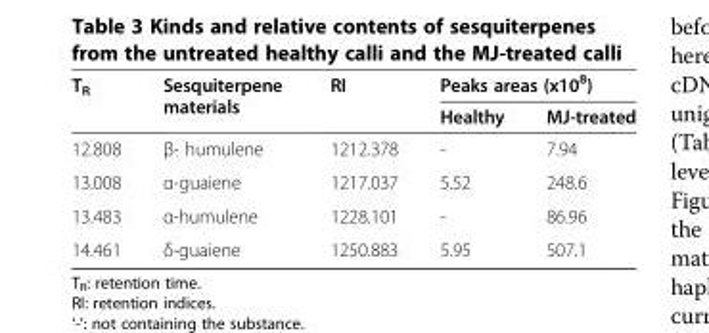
<table><thead><tr><td rowspan="2">T<sub>R</sub></td><td rowspan="2">Sesquiterpene materials</td><td rowspan="2">RI</td><td colspan="2">Peaks areas (x10<sup>8</sup>)</td></tr><tr><td>Healthy</td><td>MJ-treated</td></tr></thead><tbody><tr><td>12.808</td><td>β- humulene</td><td>1212.378</td><td>-</td><td>7.94</td></tr><tr><td>13.008</td><td>α-guaiene</td><td>1217.037</td><td>5.52</td><td>248.6</td></tr><tr><td>13.483</td><td>α-humulene</td><td>1228.101</td><td>-</td><td>86.96</td></tr><tr><td>14.461</td><td>δ-guaiene</td><td>1250.883</td><td>5.95</td><td>507.1</td></tr></tbody></table>